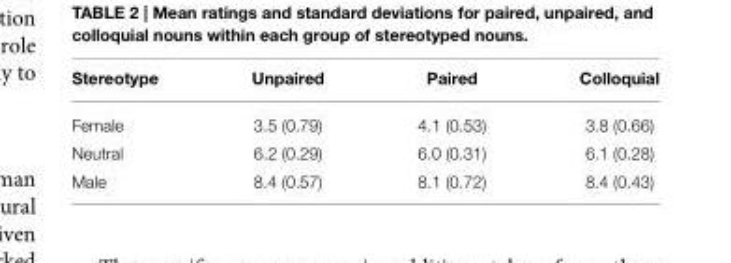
<table><thead><tr><td>Stereotype</td><td>Unpaired</td><td>Paired</td><td>Colloquial</td></tr></thead><tbody><tr><td>Female</td><td>3.5 (0.79)</td><td>4.1 (0.53)</td><td>3.8 (0.66)</td></tr><tr><td>Neutral</td><td>6.2 (0.29)</td><td>6.0 (0.31)</td><td>6.1 (0.28)</td></tr><tr><td>Male</td><td>8.4 (0.57)</td><td>8.1 (0.72)</td><td>8.4 (0.43)</td></tr></tbody></table>